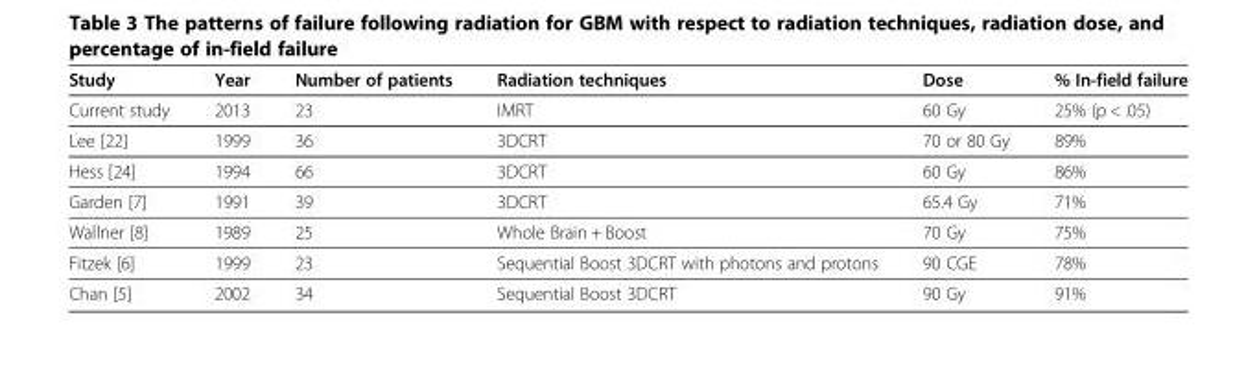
<table><thead><tr><td>Study</td><td>Year</td><td>Number of patients</td><td>Radiation techniques</td><td>Dose</td><td>% In-field failure</td></tr></thead><tbody><tr><td>Current study</td><td>2013</td><td>23</td><td>IMRT</td><td>60 Gy</td><td>25% (p &lt; .05)</td></tr><tr><td>Lee [22]</td><td>1999</td><td>36</td><td>3DCRT</td><td>70 or 80 Gy</td><td>89%</td></tr><tr><td>Hess [24]</td><td>1994</td><td>66</td><td>3DCRT</td><td>60 Gy</td><td>86%</td></tr><tr><td>Garden [7]</td><td>1991</td><td>39</td><td>3DCRT</td><td>65.4 Gy</td><td>71%</td></tr><tr><td>Wallner [8]</td><td>1989</td><td>25</td><td>Whole Brain + Boost</td><td>70 Gy</td><td>75%</td></tr><tr><td>Fitzek [6]</td><td>1999</td><td>23</td><td>Sequential Boost 3DCRT with photons and protons</td><td>90 CGE</td><td>78%</td></tr><tr><td>Chan [5]</td><td>2002</td><td>34</td><td>Sequential Boost 3DCRT</td><td>90 Gy</td><td>91%</td></tr></tbody></table>